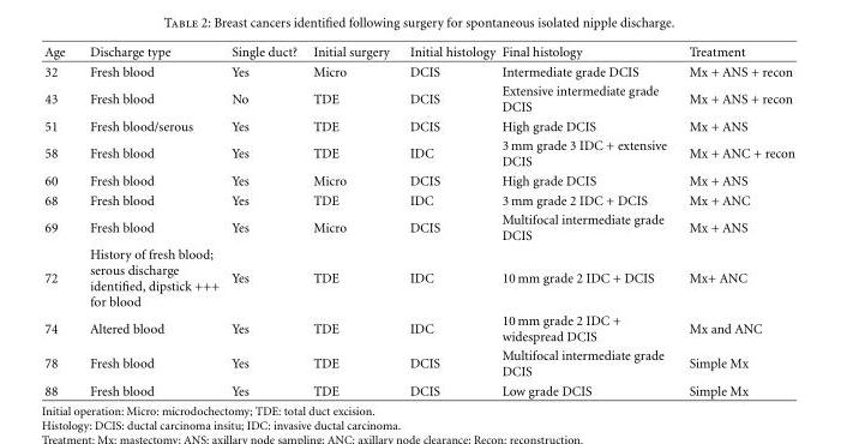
<table><thead><tr><td>Age</td><td>Discharge type</td><td>Single duct?</td><td>Initial surgery</td><td>Initial histology</td><td>Final histology</td><td>Treatment</td></tr></thead><tbody><tr><td>32</td><td>Fresh blood</td><td>Yes</td><td>Micro</td><td>DCIS</td><td>Intermediate grade DCIS</td><td>Mx + ANS + recon</td></tr><tr><td>43</td><td>Fresh blood</td><td>No</td><td>TDE</td><td>DCIS</td><td>Extensive intermediate grade DCIS</td><td>Mx + ANS + recon</td></tr><tr><td>51</td><td>Fresh blood/serous</td><td>Yes</td><td>TDE</td><td>DCIS</td><td>High grade DCIS</td><td>Mx + ANS</td></tr><tr><td>58</td><td>Fresh blood</td><td>Yes</td><td>TDE</td><td>IDC</td><td>3 mm grade 3 IDC + extensive DCIS</td><td>Mx + ANC + recon</td></tr><tr><td>60</td><td>Fresh blood</td><td>Yes</td><td>Micro</td><td>DCIS</td><td>High grade DCIS</td><td>Mx + ANS</td></tr><tr><td>68</td><td>Fresh blood</td><td>Yes</td><td>TDE</td><td>IDC</td><td>3 mm grade 2 IDC + DCIS</td><td>Mx + ANC</td></tr><tr><td>69</td><td>Fresh blood</td><td>Yes</td><td>Micro</td><td>DCIS</td><td>Multifocal intermediate grade DCIS</td><td>Mx + ANS</td></tr><tr><td>72</td><td>History of fresh blood; serous discharge identified, dipstick +++ for blood</td><td>Yes</td><td>TDE</td><td>IDC</td><td>10 mm grade 2 IDC + DCIS</td><td>Mx+ ANC</td></tr><tr><td>74</td><td>Altered blood</td><td>Yes</td><td>TDE</td><td>IDC</td><td>10 mm grade 2 IDC + widespread DCIS</td><td>Mx and ANC</td></tr><tr><td>78</td><td>Fresh blood</td><td>Yes</td><td>TDE</td><td>DCIS</td><td>Multifocal intermediate grade DCIS</td><td>Simple Mx</td></tr><tr><td>88</td><td>Fresh blood</td><td>Yes</td><td>TDE</td><td>DCIS</td><td>Low grade DCIS</td><td>Simple Mx</td></tr></tbody></table>